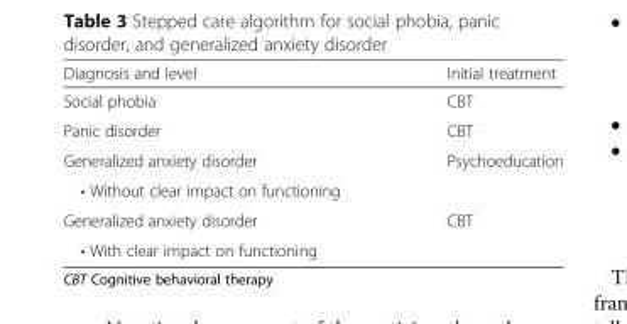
<table><thead><tr><td>Diagnosis and level</td><td>Initial treatment</td></tr></thead><tbody><tr><td>Social phobia</td><td>CBT</td></tr><tr><td>Panic disorder</td><td>CBT</td></tr><tr><td>Generalized anxiety disorder</td><td rowspan="2">Psychoeducation</td></tr><tr><td>• Without clear impact on functioning</td></tr><tr><td>Generalized anxiety disorder</td><td rowspan="2">CBT</td></tr><tr><td>• With clear impact on functioning</td></tr></tbody></table>